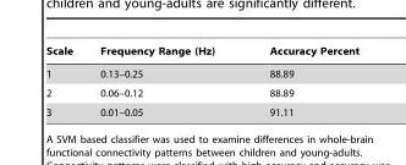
<table><thead><tr><td>Scale</td><td>Frequency Range (Hz)</td><td>Accuracy Percent</td></tr></thead><tbody><tr><td>1</td><td>0.13–0.25</td><td>88.89</td></tr><tr><td>2</td><td>0.06–0.12</td><td>88.89</td></tr><tr><td>3</td><td>0.01–0.05</td><td>91.11</td></tr></tbody></table>